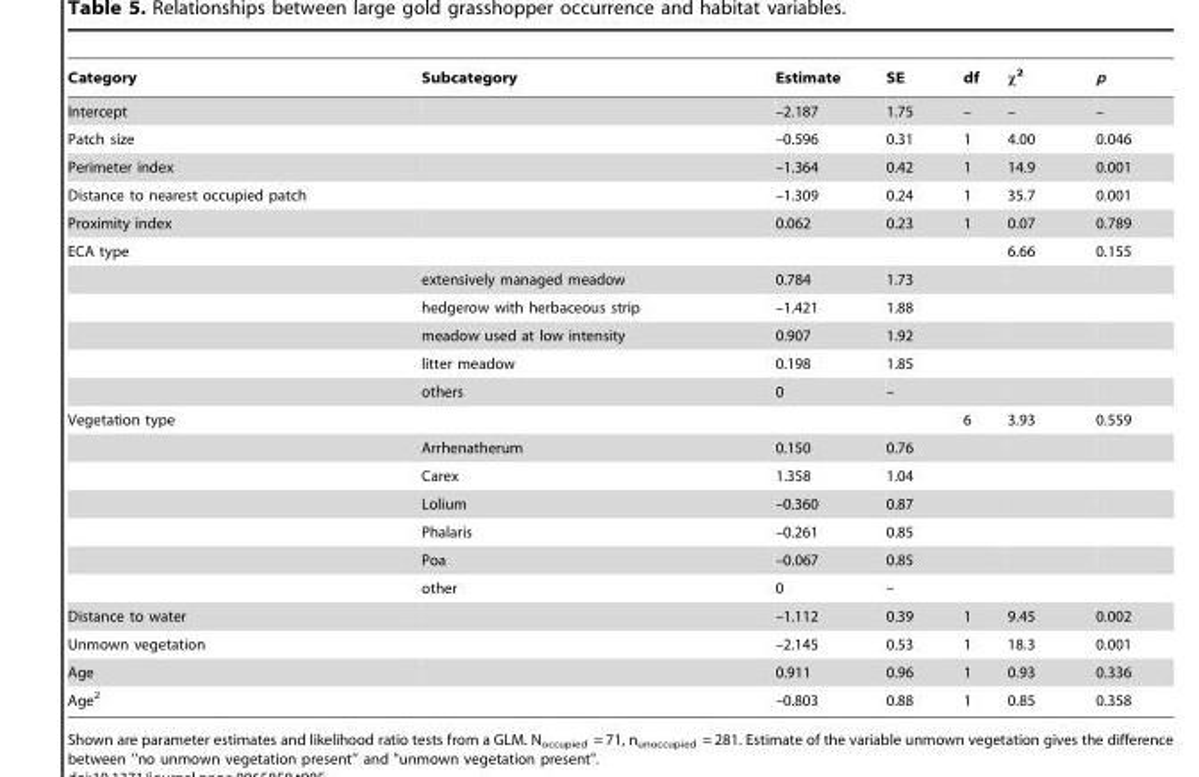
<table><thead><tr><td>Category</td><td>Subcategory</td><td>Estimate</td><td>SE</td><td>df</td><td>χ<sup>2</sup></td><td>p</td></tr></thead><tbody><tr><td>Intercept</td><td></td><td>–2.187</td><td>1.75</td><td>–</td><td>–</td><td>–</td></tr><tr><td>Patch size</td><td></td><td>–0.596</td><td>0.31</td><td>1</td><td>4.00</td><td>0.046</td></tr><tr><td>Perimeter index</td><td></td><td>–1.364</td><td>0.42</td><td>1</td><td>14.9</td><td>0.001</td></tr><tr><td>Distance to nearest occupied patch</td><td></td><td>–1.309</td><td>0.24</td><td>1</td><td>35.7</td><td>0.001</td></tr><tr><td>Proximity index</td><td></td><td>0.062</td><td>0.23</td><td>1</td><td>0.07</td><td>0.789</td></tr><tr><td rowspan="6">ECA type</td><td></td><td></td><td></td><td></td><td>6.66</td><td>0.155</td></tr><tr><td>extensively managed meadow</td><td>0.784</td><td>1.73</td><td></td><td></td><td></td></tr><tr><td>hedgerow with herbaceous strip</td><td>–1.421</td><td>1.88</td><td></td><td></td><td></td></tr><tr><td>meadow used at low intensity</td><td>0.907</td><td>1.92</td><td></td><td></td><td></td></tr><tr><td>litter meadow</td><td>0.198</td><td>1.85</td><td></td><td></td><td></td></tr><tr><td>others</td><td>0</td><td>–</td><td></td><td></td><td></td></tr><tr><td rowspan="7">Vegetation type</td><td></td><td></td><td></td><td>6</td><td>3.93</td><td>0.559</td></tr><tr><td>Arrhenatherum</td><td>0.150</td><td>0.76</td><td></td><td></td><td></td></tr><tr><td>Carex</td><td>1.358</td><td>1.04</td><td></td><td></td><td></td></tr><tr><td>Lolium</td><td>–0.360</td><td>0.87</td><td></td><td></td><td></td></tr><tr><td>Phalaris</td><td>–0.261</td><td>0.85</td><td></td><td></td><td></td></tr><tr><td>Poa</td><td>–0.067</td><td>0.85</td><td></td><td></td><td></td></tr><tr><td>other</td><td>0</td><td>–</td><td></td><td></td><td></td></tr><tr><td>Distance to water</td><td></td><td>–1.112</td><td>0.39</td><td>1</td><td>9.45</td><td>0.002</td></tr><tr><td>Unmown vegetation</td><td></td><td>–2.145</td><td>0.53</td><td>1</td><td>18.3</td><td>0.001</td></tr><tr><td>Age</td><td></td><td>0.911</td><td>0.96</td><td>1</td><td>0.93</td><td>0.336</td></tr><tr><td>Age<sup>2</sup></td><td></td><td>–0.803</td><td>0.88</td><td>1</td><td>0.85</td><td>0.358</td></tr></tbody></table>